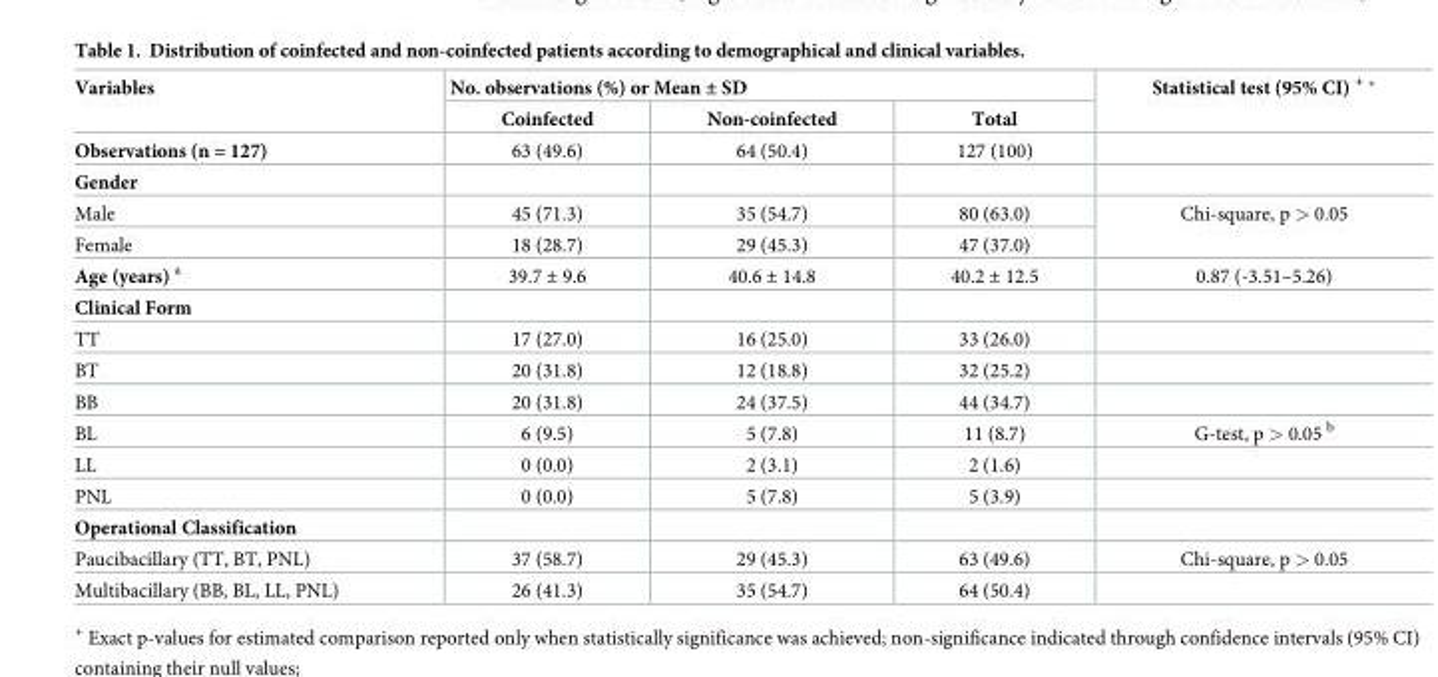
<table><thead><tr><td rowspan="2">Variables</td><td colspan="3">No. observations (%) or Mean ± SD</td><td rowspan="2">Statistical test (95% CI) +</td></tr><tr><td>Coinfected</td><td>Non-coinfected</td><td>Total</td></tr></thead><tbody><tr><td>Observations (n = 127)</td><td>63 (49.6)</td><td>64 (50.4)</td><td>127 (100)</td><td></td></tr><tr><td colspan="5">Gender</td></tr><tr><td>Male</td><td>45 (71.3)</td><td>35 (54.7)</td><td>80 (63.0)</td><td rowspan="2">Chi-square, p &gt; 0.05</td></tr><tr><td>Female</td><td>18 (28.7)</td><td>29 (45.3)</td><td>47 (37.0)</td></tr><tr><td>Age (years) <sup>a</sup></td><td>39.7 ± 9.6</td><td>40.6 ± 14.8</td><td>40.2 ± 12.5</td><td>0.87 (-3.51–5.26)</td></tr><tr><td colspan="5">Clinical Form</td></tr><tr><td>TT</td><td>17 (27.0)</td><td>16 (25.0)</td><td>33 (26.0)</td><td></td></tr><tr><td>BT</td><td>20 (31.8)</td><td>12 (18.8)</td><td>32 (25.2)</td><td></td></tr><tr><td>BB</td><td>20 (31.8)</td><td>24 (37.5)</td><td>44 (34.7)</td><td></td></tr><tr><td>BL</td><td>6 (9.5)</td><td>5 (7.8)</td><td>11 (8.7)</td><td>G-test, p &gt; 0.05 <sup>b</sup></td></tr><tr><td>LL</td><td>0 (0.0)</td><td>2 (3.1)</td><td>2 (1.6)</td><td></td></tr><tr><td>PNL</td><td>0 (0.0)</td><td>5 (7.8)</td><td>5 (3.9)</td><td></td></tr><tr><td colspan="5">Operational Classification</td></tr><tr><td>Paucibacillary (TT, BT, PNL)</td><td>37 (58.7)</td><td>29 (45.3)</td><td>63 (49.6)</td><td>Chi-square, p &gt; 0.05</td></tr><tr><td>Multibacillary (BB, BL, LL, PNL)</td><td>26 (41.3)</td><td>35 (54.7)</td><td>64 (50.4)</td><td></td></tr></tbody></table>